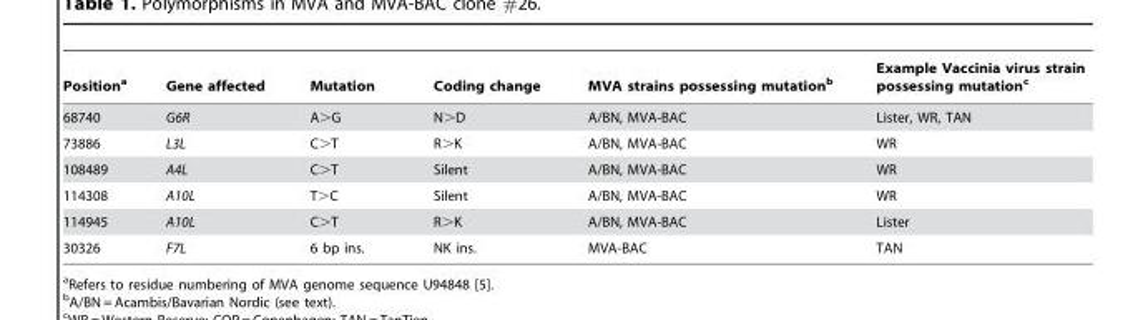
<table><thead><tr><td>Position<sup>a</sup></td><td>Gene affected</td><td>Mutation</td><td>Coding change</td><td>MVA strains possessing mutation<sup>b</sup></td><td>Example Vaccinia virus strain possessing mutation<sup>c</sup></td></tr></thead><tbody><tr><td>68740</td><td>G6R</td><td>A&gt;G</td><td>N&gt;D</td><td>A/BN, MVA-BAC</td><td>Lister, WR, TAN</td></tr><tr><td>73886</td><td>L3L</td><td>C&gt;T</td><td>R&gt;K</td><td>A/BN, MVA-BAC</td><td>WR</td></tr><tr><td>108489</td><td>A4L</td><td>C&gt;T</td><td>Silent</td><td>A/BN, MVA-BAC</td><td>WR</td></tr><tr><td>114308</td><td>A10L</td><td>T&gt;C</td><td>Silent</td><td>A/BN, MVA-BAC</td><td>WR</td></tr><tr><td>114945</td><td>A10L</td><td>C&gt;T</td><td>R&gt;K</td><td>A/BN, MVA-BAC</td><td>Lister</td></tr><tr><td>30326</td><td>F7L</td><td>6 bp ins.</td><td>NK ins.</td><td>MVA-BAC</td><td>TAN</td></tr></tbody></table>